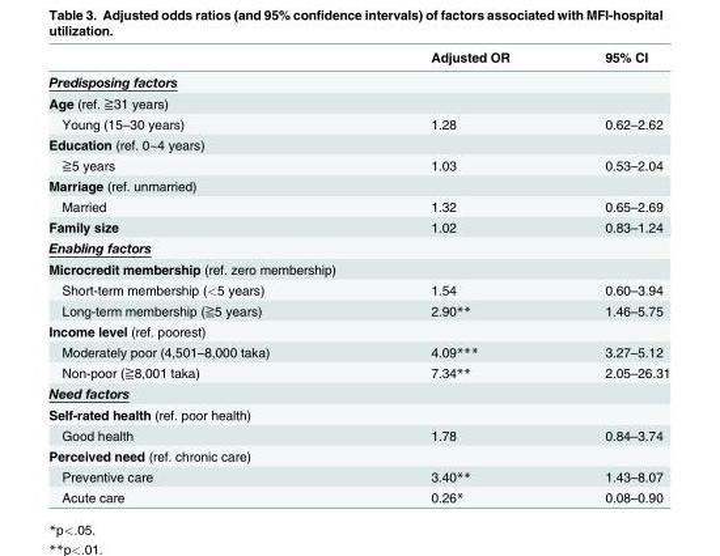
<table><thead><tr><td></td><td>Adjusted OR</td><td>95% CI</td></tr></thead><tbody><tr><td colspan="3">Predisposing factors</td></tr><tr><td colspan="3">Age (ref. ≧31 years)</td></tr><tr><td>Young (15–30 years)</td><td>1.28</td><td>0.62–2.62</td></tr><tr><td colspan="3">Education (ref. 0~4 years)</td></tr><tr><td>≧5 years</td><td>1.03</td><td>0.53–2.04</td></tr><tr><td colspan="3">Marriage (ref. unmarried)</td></tr><tr><td>Married</td><td>1.32</td><td>0.65–2.69</td></tr><tr><td>Family size</td><td>1.02</td><td>0.83–1.24</td></tr><tr><td colspan="3">Enabling factors</td></tr><tr><td colspan="3">Microcredit membership (ref. zero membership)</td></tr><tr><td>Short-term membership (&lt;5 years)</td><td>1.54</td><td>0.60–3.94</td></tr><tr><td>Long-term membership (≧5 years)</td><td>2.90**</td><td>1.46–5.75</td></tr><tr><td colspan="3">Income level (ref. poorest)</td></tr><tr><td>Moderately poor (4,501–8,000 taka)</td><td>4.09***</td><td>3.27–5.12</td></tr><tr><td>Non-poor (≧8,001 taka)</td><td>7.34**</td><td>2.05–26.31</td></tr><tr><td colspan="3">Need factors</td></tr><tr><td colspan="3">Self-rated health (ref. poor health)</td></tr><tr><td>Good health</td><td>1.78</td><td>0.84–3.74</td></tr><tr><td colspan="3">Perceived need (ref. chronic care)</td></tr><tr><td>Preventive care</td><td>3.40**</td><td>1.43–8.07</td></tr><tr><td>Acute care</td><td>0.26*</td><td>0.08–0.90</td></tr></tbody></table>